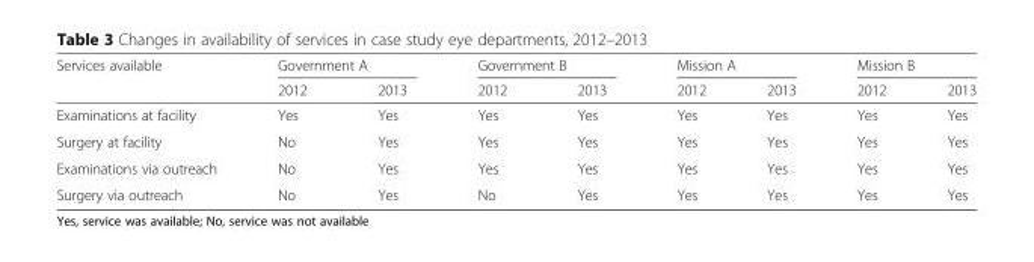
<table><thead><tr><td rowspan="2">Services available</td><td colspan="2">Government A</td><td colspan="2">Government B</td><td colspan="2">Mission A</td><td colspan="2">Mission B</td></tr><tr><td>2012</td><td>2013</td><td>2012</td><td>2013</td><td>2012</td><td>2013</td><td>2012</td><td>2013</td></tr></thead><tbody><tr><td>Examinations at facility</td><td>Yes</td><td>Yes</td><td>Yes</td><td>Yes</td><td>Yes</td><td>Yes</td><td>Yes</td><td>Yes</td></tr><tr><td>Surgery at facility</td><td>No</td><td>Yes</td><td>Yes</td><td>Yes</td><td>Yes</td><td>Yes</td><td>Yes</td><td>Yes</td></tr><tr><td>Examinations via outreach</td><td>No</td><td>Yes</td><td>Yes</td><td>Yes</td><td>Yes</td><td>Yes</td><td>Yes</td><td>Yes</td></tr><tr><td>Surgery via outreach</td><td>No</td><td>Yes</td><td>No</td><td>Yes</td><td>Yes</td><td>Yes</td><td>Yes</td><td>Yes</td></tr></tbody></table>